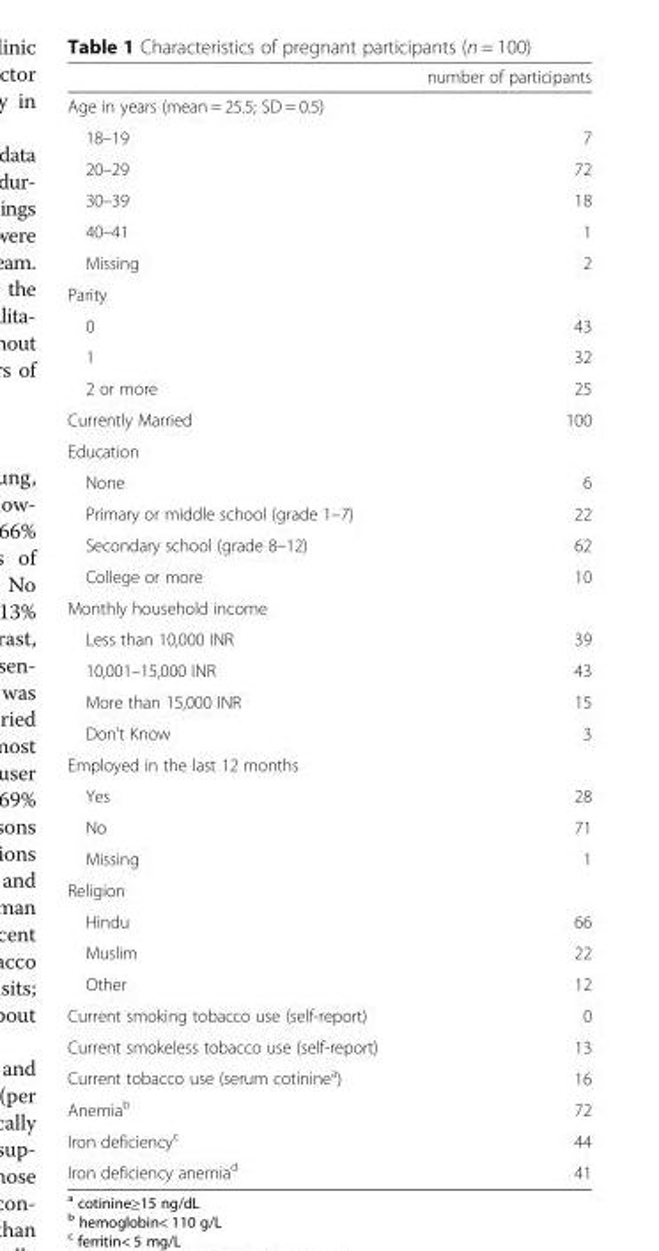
<table><thead><tr><td></td><td>number of participants</td></tr></thead><tbody><tr><td colspan="2">Age in years (mean = 25.5; SD = 0.5)</td></tr><tr><td>18–19</td><td>7</td></tr><tr><td>20–29</td><td>72</td></tr><tr><td>30–39</td><td>18</td></tr><tr><td>40–41</td><td>1</td></tr><tr><td>Missing</td><td>2</td></tr><tr><td colspan="2">Parity</td></tr><tr><td>0</td><td>43</td></tr><tr><td>1</td><td>32</td></tr><tr><td>2 or more</td><td>25</td></tr><tr><td>Currently Married</td><td>100</td></tr><tr><td colspan="2">Education</td></tr><tr><td>None</td><td>6</td></tr><tr><td>Primary or middle school (grade 1–7)</td><td>22</td></tr><tr><td>Secondary school (grade 8–12)</td><td>62</td></tr><tr><td>College or more</td><td>10</td></tr><tr><td colspan="2">Monthly household income</td></tr><tr><td>Less than 10,000 INR</td><td>39</td></tr><tr><td>10,001–15,000 INR</td><td>43</td></tr><tr><td>More than 15,000 INR</td><td>15</td></tr><tr><td>Don’t Know</td><td>3</td></tr><tr><td colspan="2">Employed in the last 12 months</td></tr><tr><td>Yes</td><td>28</td></tr><tr><td>No</td><td>71</td></tr><tr><td>Missing</td><td>1</td></tr><tr><td colspan="2">Religion</td></tr><tr><td>Hindu</td><td>66</td></tr><tr><td>Muslim</td><td>22</td></tr><tr><td>Other</td><td>12</td></tr><tr><td>Current smoking tobacco use (self-report)</td><td>0</td></tr><tr><td>Current smokeless tobacco use (self-report)</td><td>13</td></tr><tr><td>Current tobacco use (serum cotinine<sup>a</sup>)</td><td>16</td></tr><tr><td>Anemia<sup>b</sup></td><td>72</td></tr><tr><td>Iron deficiency<sup>c</sup></td><td>44</td></tr><tr><td>Iron deficiency anemia<sup>d</sup></td><td>41</td></tr></tbody></table>